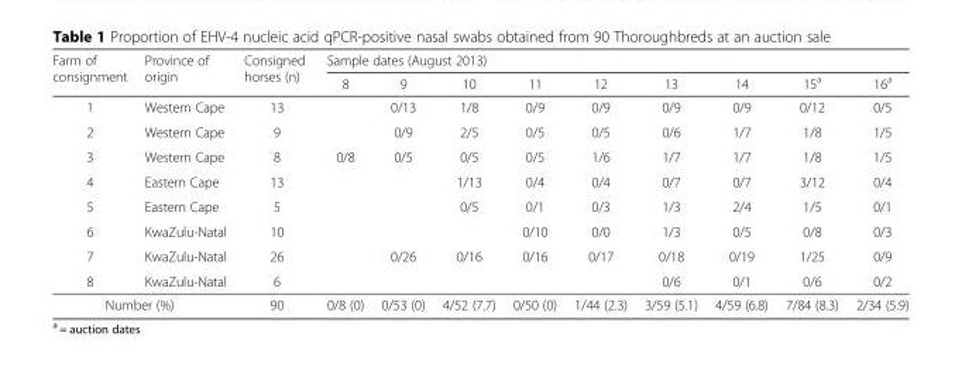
<table><thead><tr><td rowspan="2">Farm of consignment</td><td rowspan="2">Province of origin</td><td rowspan="2">Consigned horses (n)</td><td colspan="9">Sample dates (August 2013)</td></tr><tr><td>8</td><td>9</td><td>10</td><td>11</td><td>12</td><td>13</td><td>14</td><td>15<sup>a</sup></td><td>16<sup>a</sup></td></tr></thead><tbody><tr><td>1</td><td>Western Cape</td><td>13</td><td></td><td>0/13</td><td>1/8</td><td>0/9</td><td>0/9</td><td>0/9</td><td>0/9</td><td>0/12</td><td>0/5</td></tr><tr><td>2</td><td>Western Cape</td><td>9</td><td></td><td>0/9</td><td>2/5</td><td>0/5</td><td>0/5</td><td>0/6</td><td>1/7</td><td>1/8</td><td>1/5</td></tr><tr><td>3</td><td>Western Cape</td><td>8</td><td>0/8</td><td>0/5</td><td>0/5</td><td>0/5</td><td>1/6</td><td>1/7</td><td>1/7</td><td>1/8</td><td>1/5</td></tr><tr><td>4</td><td>Eastern Cape</td><td>13</td><td></td><td></td><td>1/13</td><td>0/4</td><td>0/4</td><td>0/7</td><td>0/7</td><td>3/12</td><td>0/4</td></tr><tr><td>5</td><td>Eastern Cape</td><td>5</td><td></td><td></td><td>0/5</td><td>0/1</td><td>0/3</td><td>1/3</td><td>2/4</td><td>1/5</td><td>0/1</td></tr><tr><td>6</td><td>KwaZulu-Natal</td><td>10</td><td></td><td></td><td></td><td>0/10</td><td>0/0</td><td>1/3</td><td>0/5</td><td>0/8</td><td>0/3</td></tr><tr><td>7</td><td>KwaZulu-Natal</td><td>26</td><td></td><td>0/26</td><td>0/16</td><td>0/16</td><td>0/17</td><td>0/18</td><td>0/19</td><td>1/25</td><td>0/9</td></tr><tr><td>8</td><td>KwaZulu-Natal</td><td>6</td><td></td><td></td><td></td><td></td><td></td><td>0/6</td><td>0/1</td><td>0/6</td><td>0/2</td></tr><tr><td colspan="2">Number (%)</td><td>90</td><td>0/8 (0)</td><td>0/53 (0)</td><td>4/52 (7.7)</td><td>0/50 (0)</td><td>1/44 (2.3)</td><td>3/59 (5.1)</td><td>4/59 (6.8)</td><td>7/84 (8.3)</td><td>2/34 (5.9)</td></tr></tbody></table>